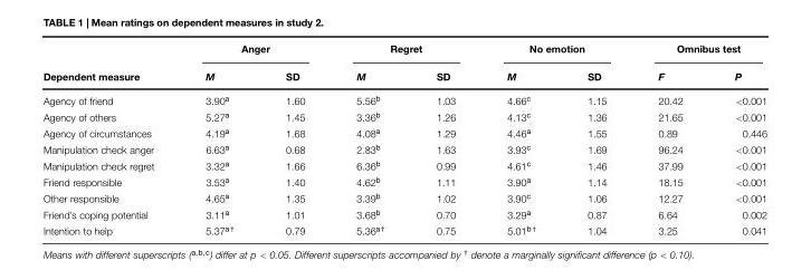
<table><thead><tr><td rowspan="2">Dependent measure</td><td colspan="2">Anger</td><td colspan="2">Regret</td><td colspan="2">No emotion</td><td colspan="2">Omnibus test</td></tr><tr><td>M</td><td>SD</td><td>M</td><td>SD</td><td>M</td><td>SD</td><td>F</td><td>P</td></tr></thead><tbody><tr><td>Agency of friend</td><td>3.90<sup>a</sup></td><td>1.60</td><td>5.56<sup>b</sup></td><td>1.03</td><td>4.66<sup>c</sup></td><td>1.15</td><td>20.42</td><td>&lt;0.001</td></tr><tr><td>Agency of others</td><td>5.27<sup>a</sup></td><td>1.45</td><td>3.36<sup>b</sup></td><td>1.26</td><td>4.13<sup>c</sup></td><td>1.36</td><td>21.65</td><td>&lt;0.001</td></tr><tr><td>Agency of circumstances</td><td>4.19<sup>a</sup></td><td>1.68</td><td>4.08<sup>a</sup></td><td>1.29</td><td>4.46<sup>a</sup></td><td>1.55</td><td>0.89</td><td>0.446</td></tr><tr><td>Manipulation check anger</td><td>6.63<sup>a</sup></td><td>0.68</td><td>2.83<sup>b</sup></td><td>1.63</td><td>3.93<sup>c</sup></td><td>1.69</td><td>96.24</td><td>&lt;0.001</td></tr><tr><td>Manipulation check regret</td><td>3.32<sup>a</sup></td><td>1.66</td><td>6.36<sup>b</sup></td><td>0.99</td><td>4.61<sup>c</sup></td><td>1.46</td><td>37.99</td><td>&lt;0.001</td></tr><tr><td>Friend responsible</td><td>3.53<sup>a</sup></td><td>1.40</td><td>4.62<sup>b</sup></td><td>1.11</td><td>3.90<sup>a</sup></td><td>1.14</td><td>18.15</td><td>&lt;0.001</td></tr><tr><td>Other responsible</td><td>4.65<sup>a</sup></td><td>1.35</td><td>3.39<sup>b</sup></td><td>1.02</td><td>3.90<sup>c</sup></td><td>1.06</td><td>12.27</td><td>&lt;0.001</td></tr><tr><td>Friend’s coping potential</td><td>3.11<sup>a</sup></td><td>1.01</td><td>3.68<sup>b</sup></td><td>0.70</td><td>3.29<sup>a</sup></td><td>0.87</td><td>6.64</td><td>0.002</td></tr><tr><td>Intention to help</td><td>5.37<sup>a†</sup></td><td>0.79</td><td>5.36<sup>a†</sup></td><td>0.75</td><td>5.01<sup>b†</sup></td><td>1.04</td><td>3.25</td><td>0.041</td></tr></tbody></table>